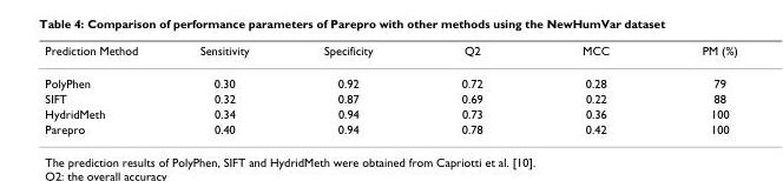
<table><thead><tr><td>Prediction Method</td><td>Sensitivity</td><td>Specificity</td><td>Q2</td><td>MCC</td><td>PM (%)</td></tr></thead><tbody><tr><td>PolyPhen</td><td>0.30</td><td>0.92</td><td>0.72</td><td>0.28</td><td>79</td></tr><tr><td>SIFT</td><td>0.32</td><td>0.87</td><td>0.69</td><td>0.22</td><td>88</td></tr><tr><td>HydridMeth</td><td>0.34</td><td>0.94</td><td>0.73</td><td>0.36</td><td>100</td></tr><tr><td>Parepro</td><td>0.40</td><td>0.94</td><td>0.78</td><td>0.42</td><td>100</td></tr></tbody></table>